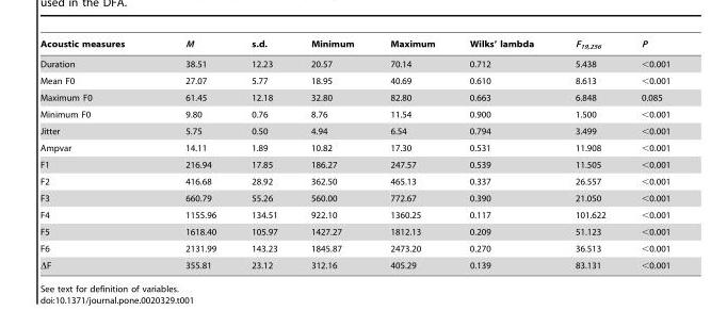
<table><thead><tr><td>Acoustic measures</td><td>M</td><td>s.d.</td><td>Minimum</td><td>Maximum</td><td>Wilks’ lambda</td><td>F<sub>19,256</sub></td><td>P</td></tr></thead><tbody><tr><td>Duration</td><td>38.51</td><td>12.23</td><td>20.57</td><td>70.14</td><td>0.712</td><td>5.438</td><td>&lt;0.001</td></tr><tr><td>Mean F0</td><td>27.07</td><td>5.77</td><td>18.95</td><td>40.69</td><td>0.610</td><td>8.613</td><td>&lt;0.001</td></tr><tr><td>Maximum F0</td><td>61.45</td><td>12.18</td><td>32.80</td><td>82.80</td><td>0.663</td><td>6.848</td><td>0.085</td></tr><tr><td>Minimum F0</td><td>9.80</td><td>0.76</td><td>8.76</td><td>11.54</td><td>0.900</td><td>1.500</td><td>&lt;0.001</td></tr><tr><td>Jitter</td><td>5.75</td><td>0.50</td><td>4.94</td><td>6.54</td><td>0.794</td><td>3.499</td><td>&lt;0.001</td></tr><tr><td>Ampvar</td><td>14.11</td><td>1.89</td><td>10.82</td><td>17.30</td><td>0.531</td><td>11.908</td><td>&lt;0.001</td></tr><tr><td>F1</td><td>216.94</td><td>17.85</td><td>186.27</td><td>247.57</td><td>0.539</td><td>11.505</td><td>&lt;0.001</td></tr><tr><td>F2</td><td>416.68</td><td>28.92</td><td>362.50</td><td>465.13</td><td>0.337</td><td>26.557</td><td>&lt;0.001</td></tr><tr><td>F3</td><td>660.79</td><td>55.26</td><td>560.00</td><td>772.67</td><td>0.390</td><td>21.050</td><td>&lt;0.001</td></tr><tr><td>F4</td><td>1155.96</td><td>134.51</td><td>922.10</td><td>1360.25</td><td>0.117</td><td>101.622</td><td>&lt;0.001</td></tr><tr><td>F5</td><td>1618.40</td><td>105.97</td><td>1427.27</td><td>1812.13</td><td>0.209</td><td>51.123</td><td>&lt;0.001</td></tr><tr><td>F6</td><td>2131.99</td><td>143.23</td><td>1845.87</td><td>2473.20</td><td>0.270</td><td>36.513</td><td>&lt;0.001</td></tr><tr><td>ΔF</td><td>355.81</td><td>23.12</td><td>312.16</td><td>405.29</td><td>0.139</td><td>83.131</td><td>&lt;0.001</td></tr></tbody></table>